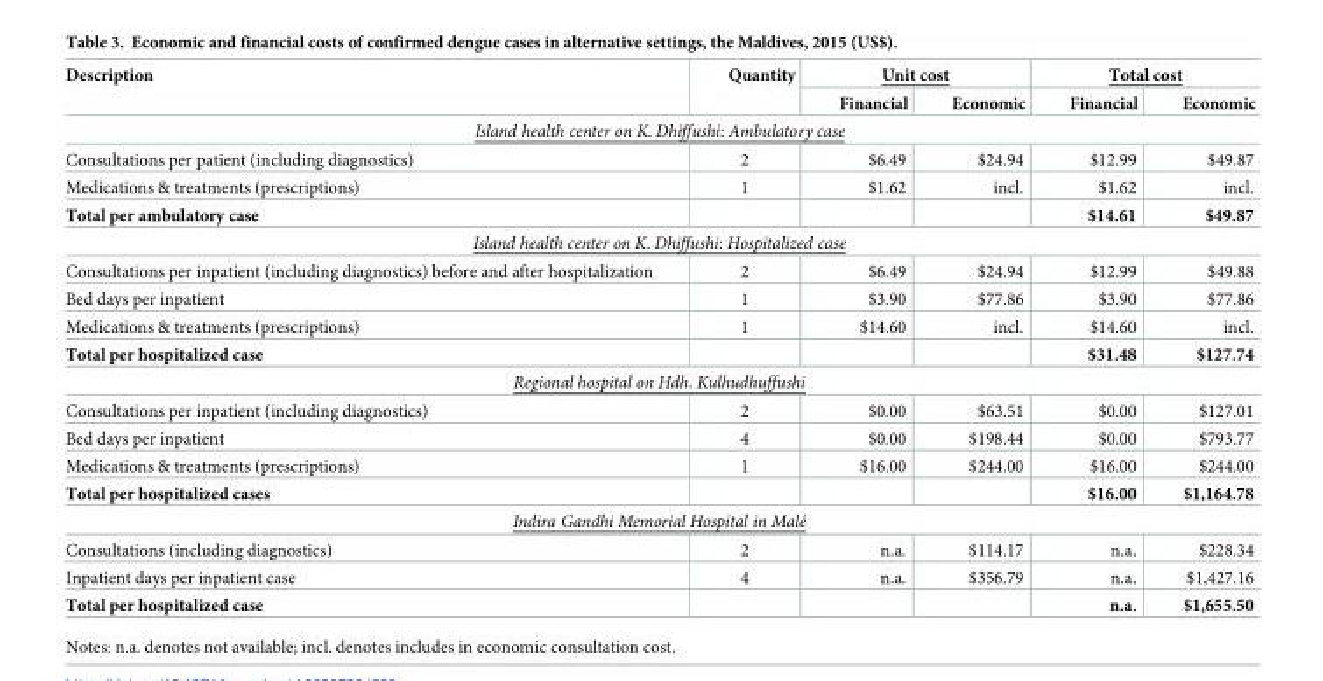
<table><thead><tr><td rowspan="2">Description</td><td rowspan="2">Quantity</td><td colspan="2">Unit cost</td><td colspan="2">Total cost</td></tr><tr><td>Financial</td><td>Economic</td><td>Financial</td><td>Economic</td></tr></thead><tbody><tr><td colspan="6">Island health center on K. Dhiffushi: Ambulatory case</td></tr><tr><td>Consultations per patient (including diagnostics)</td><td>2</td><td>$6.49</td><td>$24.94</td><td>$12.99</td><td>$49.87</td></tr><tr><td>Medications &amp; treatments (prescriptions)</td><td>1</td><td>$1.62</td><td>incl.</td><td>$1.62</td><td>incl.</td></tr><tr><td>Total per ambulatory case</td><td></td><td></td><td></td><td>$14.61</td><td>$49.87</td></tr><tr><td colspan="6">Island health center on K. Dhiffushi: Hospitalized case</td></tr><tr><td>Consultations per inpatient (including diagnostics) before and after hospitalization</td><td>2</td><td>$6.49</td><td>$24.94</td><td>$12.99</td><td>$49.88</td></tr><tr><td>Bed days per inpatient</td><td>1</td><td>$3.90</td><td>$77.86</td><td>$3.90</td><td>$77.86</td></tr><tr><td>Medications &amp; treatments (prescriptions)</td><td>1</td><td>$14.60</td><td>incl.</td><td>$14.60</td><td>incl.</td></tr><tr><td>Total per hospitalized case</td><td></td><td></td><td></td><td>$31.48</td><td>$127.74</td></tr><tr><td colspan="6">Regional hospital on Hdh. Kulhudhuffushi</td></tr><tr><td>Consultations per inpatient (including diagnostics)</td><td>2</td><td>$0.00</td><td>$63.51</td><td>$0.00</td><td>$127.01</td></tr><tr><td>Bed days per inpatient</td><td>4</td><td>$0.00</td><td>$198.44</td><td>$0.00</td><td>$793.77</td></tr><tr><td>Medications &amp; treatments (prescriptions)</td><td>1</td><td>$16.00</td><td>$244.00</td><td>$16.00</td><td>$244.00</td></tr><tr><td>Total per hospitalized cases</td><td></td><td></td><td></td><td>$16.00</td><td>$1,164.78</td></tr><tr><td colspan="6">Indira Gandhi Memorial Hospital in Malé</td></tr><tr><td>Consultations (including diagnostics)</td><td>2</td><td>n.a.</td><td>$114.17</td><td>n.a.</td><td>$228.34</td></tr><tr><td>Inpatient days per inpatient case</td><td>4</td><td>n.a.</td><td>$356.79</td><td>n.a.</td><td>$1,427.16</td></tr><tr><td>Total per hospitalized case</td><td></td><td></td><td></td><td>n.a.</td><td>$1,655.50</td></tr></tbody></table>